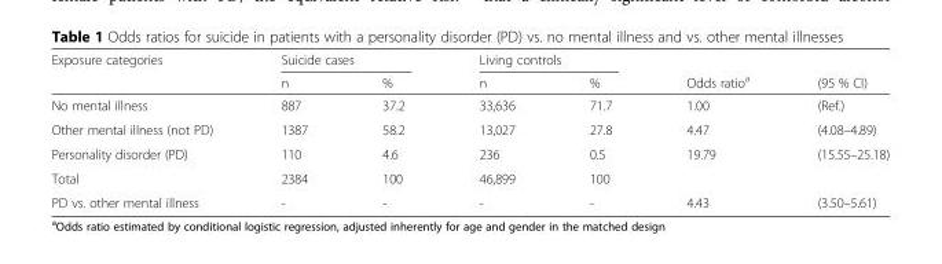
<table><thead><tr><td rowspan="2">Exposure categories</td><td colspan="2">Suicide cases</td><td colspan="2">Living controls</td><td rowspan="2">Odds ratio<sup>a</sup></td><td rowspan="2">(95 % CI)</td></tr><tr><td>n</td><td>%</td><td>n</td><td>%</td></tr></thead><tbody><tr><td>No mental illness</td><td>887</td><td>37.2</td><td>33,636</td><td>71.7</td><td>1.00</td><td>(Ref.)</td></tr><tr><td>Other mental illness (not PD)</td><td>1387</td><td>58.2</td><td>13,027</td><td>27.8</td><td>4.47</td><td>(4.08–4.89)</td></tr><tr><td>Personality disorder (PD)</td><td>110</td><td>4.6</td><td>236</td><td>0.5</td><td>19.79</td><td>(15.55–25.18)</td></tr><tr><td>Total</td><td>2384</td><td>100</td><td>46,899</td><td>100</td><td></td><td></td></tr><tr><td>PD vs. other mental illness</td><td>-</td><td>-</td><td>-</td><td>-</td><td>4.43</td><td>(3.50–5.61)</td></tr></tbody></table>